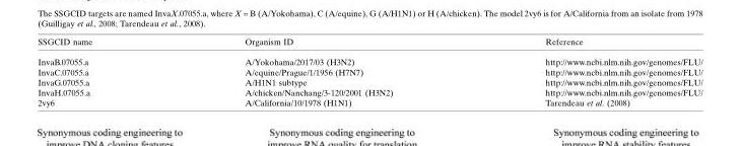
<table><thead><tr><td>SSGCID name</td><td>Organism ID</td><td>Reference</td></tr></thead><tbody><tr><td>InvaB.07055.a</td><td>A/Yokohama/2017/03 (H3N2)</td><td>http://www.ncbi.nlm.nih.gov/genomes/FLU/</td></tr><tr><td>InvaC.07055.a</td><td>A/equine/Prague/1/1956 (H7N7)</td><td>http://www.ncbi.nlm.nih.gov/genomes/FLU/</td></tr><tr><td>InvaG.07055.a</td><td>A/H1N1 subtype</td><td>http://www.ncbi.nlm.nih.gov/genomes/FLU/</td></tr><tr><td>InvaH.07055.a</td><td>A/chicken/Nanchang/3-120/2001 (H3N2)</td><td>http://www.ncbi.nlm.nih.gov/genomes/FLU/</td></tr><tr><td>2vy6</td><td>A/California/10/1978 (H1N1)</td><td>Tarendeau et al. (2008)</td></tr></tbody></table>